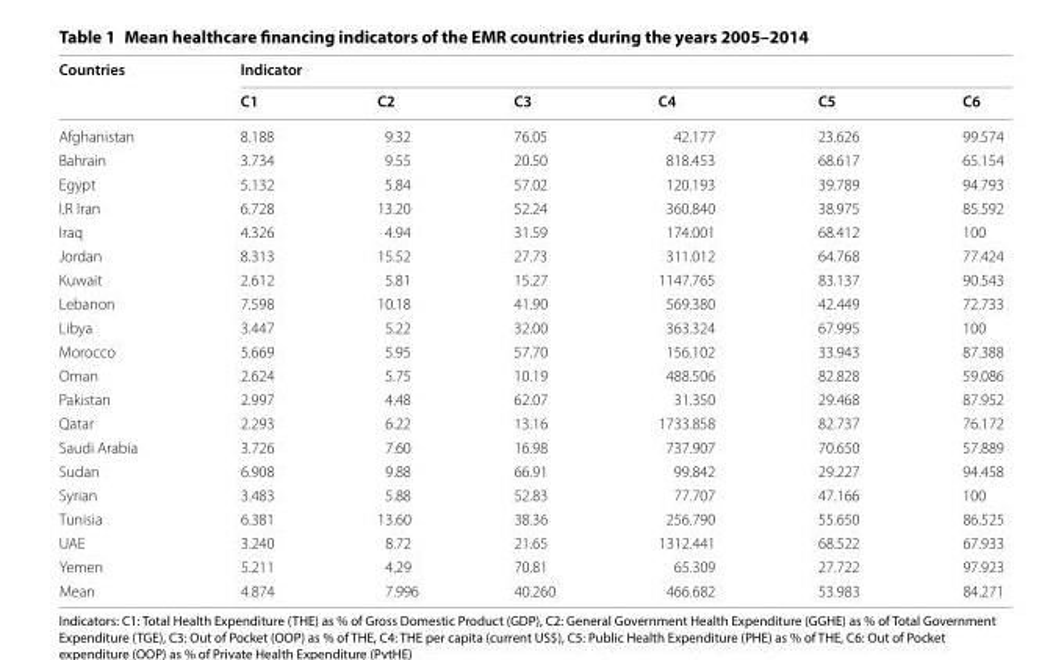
<table><thead><tr><td rowspan="2">Countries</td><td colspan="6">Indicator</td></tr><tr><td>C1</td><td>C2</td><td>C3</td><td>C4</td><td>C5</td><td>C6</td></tr></thead><tbody><tr><td>Afghanistan</td><td>8.188</td><td>9.32</td><td>76.05</td><td>42.177</td><td>23.626</td><td>99.574</td></tr><tr><td>Bahrain</td><td>3.734</td><td>9.55</td><td>20.50</td><td>818.453</td><td>68.617</td><td>65.154</td></tr><tr><td>Egypt</td><td>5.132</td><td>5.84</td><td>57.02</td><td>120.193</td><td>39.789</td><td>94.793</td></tr><tr><td>I.R Iran</td><td>6.728</td><td>13.20</td><td>52.24</td><td>360.840</td><td>38.975</td><td>85.592</td></tr><tr><td>Iraq</td><td>4.326</td><td>4.94</td><td>31.59</td><td>174.001</td><td>68.412</td><td>100</td></tr><tr><td>Jordan</td><td>8.313</td><td>15.52</td><td>27.73</td><td>311.012</td><td>64.768</td><td>77.424</td></tr><tr><td>Kuwait</td><td>2.612</td><td>5.81</td><td>15.27</td><td>1147.765</td><td>83.137</td><td>90.543</td></tr><tr><td>Lebanon</td><td>7.598</td><td>10.18</td><td>41.90</td><td>569.380</td><td>42.449</td><td>72.733</td></tr><tr><td>Libya</td><td>3.447</td><td>5.22</td><td>32.00</td><td>363.324</td><td>67.995</td><td>100</td></tr><tr><td>Morocco</td><td>5.669</td><td>5.95</td><td>57.70</td><td>156.102</td><td>33.943</td><td>87.388</td></tr><tr><td>Oman</td><td>2.624</td><td>5.75</td><td>10.19</td><td>488.506</td><td>82.828</td><td>59.086</td></tr><tr><td>Pakistan</td><td>2.997</td><td>4.48</td><td>62.07</td><td>31.350</td><td>29.468</td><td>87.952</td></tr><tr><td>Qatar</td><td>2.293</td><td>6.22</td><td>13.16</td><td>1733.858</td><td>82.737</td><td>76.172</td></tr><tr><td>Saudi Arabia</td><td>3.726</td><td>7.60</td><td>16.98</td><td>737.907</td><td>70.650</td><td>57.889</td></tr><tr><td>Sudan</td><td>6.908</td><td>9.88</td><td>66.91</td><td>99.842</td><td>29.227</td><td>94.458</td></tr><tr><td>Syrian</td><td>3.483</td><td>5.88</td><td>52.83</td><td>77.707</td><td>47.166</td><td>100</td></tr><tr><td>Tunisia</td><td>6.381</td><td>13.60</td><td>38.36</td><td>256.790</td><td>55.650</td><td>86.525</td></tr><tr><td>UAE</td><td>3.240</td><td>8.72</td><td>21.65</td><td>1312.441</td><td>68.522</td><td>67.933</td></tr><tr><td>Yemen</td><td>5.211</td><td>4.29</td><td>70.81</td><td>65.309</td><td>27.722</td><td>97.923</td></tr><tr><td>Mean</td><td>4.874</td><td>7.996</td><td>40.260</td><td>466.682</td><td>53.983</td><td>84.271</td></tr></tbody></table>